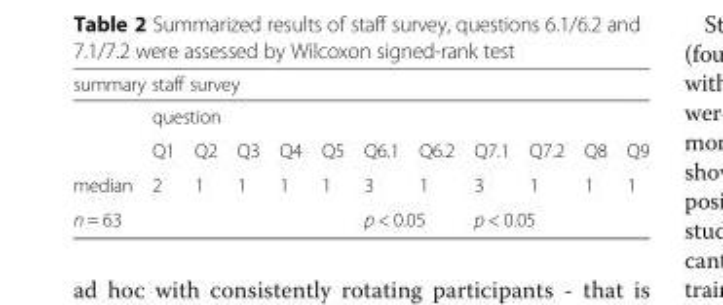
<table><thead><tr><td colspan="12">summary staff survey</td></tr><tr><td rowspan="2"></td><td colspan="11">question</td></tr><tr><td>Q1</td><td>Q2</td><td>Q3</td><td>Q4</td><td>Q5</td><td>Q6.1</td><td>Q6.2</td><td>Q7.1</td><td>Q7.2</td><td>Q8</td><td>Q9</td></tr></thead><tbody><tr><td>median</td><td>2</td><td>1</td><td>1</td><td>1</td><td>1</td><td>3</td><td>1</td><td>3</td><td>1</td><td>1</td><td>1</td></tr><tr><td>n = 63</td><td></td><td></td><td></td><td></td><td></td><td colspan="2">p &lt; 0.05</td><td colspan="2">p &lt; 0.05</td><td></td><td></td></tr></tbody></table>